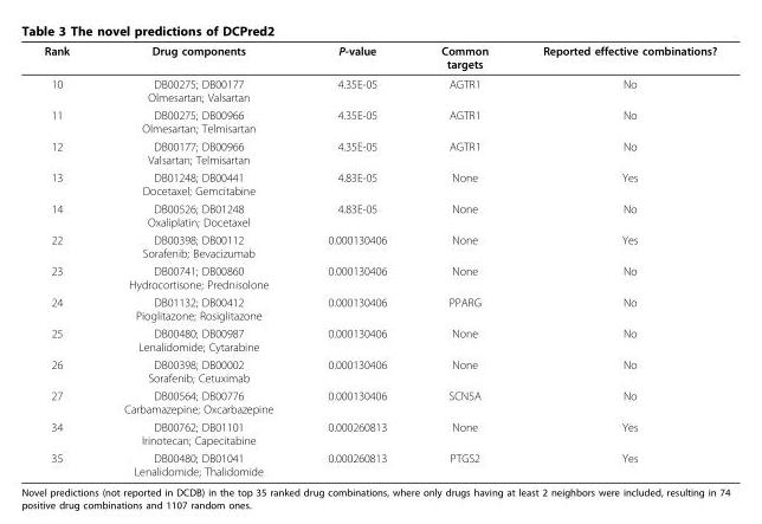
<table><thead><tr><td>Rank</td><td>Drug components</td><td>P-value</td><td>Common targets</td><td>Reported effective combinations?</td></tr></thead><tbody><tr><td>10</td><td>DB00275; DB00177 Olmesartan; Valsartan</td><td>4.35E-05</td><td>AGTR1</td><td>No</td></tr><tr><td>11</td><td>DB00275; DB00966 Olmesartan; Telmisartan</td><td>4.35E-05</td><td>AGTR1</td><td>No</td></tr><tr><td>12</td><td>DB00177; DB00966 Valsartan; Telmisartan</td><td>4.35E-05</td><td>AGTR1</td><td>No</td></tr><tr><td>13</td><td>DB01248; DB00441 Docetaxel; Gemcitabine</td><td>4.83E-05</td><td>None</td><td>Yes</td></tr><tr><td>14</td><td>DB00526; DB01248 Oxaliplatin; Docetaxel</td><td>4.83E-05</td><td>None</td><td>No</td></tr><tr><td>22</td><td>DB00398; DB00112 Sorafenib; Bevacizumab</td><td>0.000130406</td><td>None</td><td>Yes</td></tr><tr><td>23</td><td>DB00741; DB00860 Hydrocortisone; Prednisolone</td><td>0.000130406</td><td>None</td><td>No</td></tr><tr><td>24</td><td>DB01132; DB00412 Pioglitazone; Rosiglitazone</td><td>0.000130406</td><td>PPARG</td><td>No</td></tr><tr><td>25</td><td>DB00480; DB00987 Lenalidomide; Cytarabine</td><td>0.000130406</td><td>None</td><td>No</td></tr><tr><td>26</td><td>DB00398; DB00002 Sorafenib; Cetuximab</td><td>0.000130406</td><td>None</td><td>No</td></tr><tr><td>27</td><td>DB00564; DB00776 Carbamazepine; Oxcarbazepine</td><td>0.000130406</td><td>SCN5A</td><td>No</td></tr><tr><td>34</td><td>DB00762; DB01101 Irinotecan; Capecitabine</td><td>0.000260813</td><td>None</td><td>Yes</td></tr><tr><td>35</td><td>DB00480; DB01041 Lenalidomide; Thalidomide</td><td>0.000260813</td><td>PTGS2</td><td>Yes</td></tr></tbody></table>